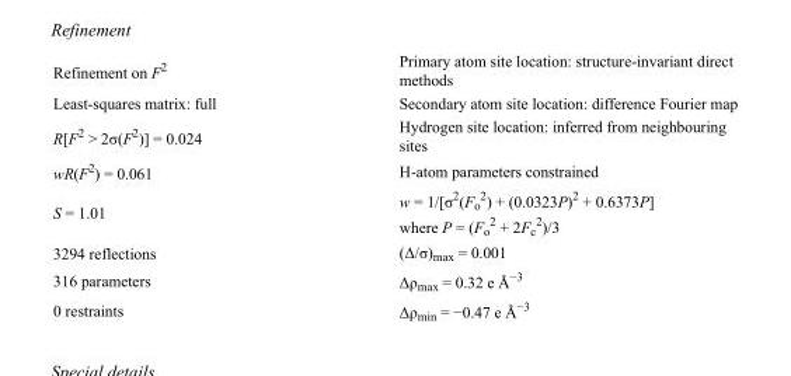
<table><tbody><tr><td>Refinement on F<sup>2</sup></td><td>Primary atom site location: structure-invariant direct methods</td></tr><tr><td>Least-squares matrix: full</td><td>Secondary atom site location: difference Fourier map</td></tr><tr><td>R[F<sup>2</sup> &gt; 2σ(F<sup>2</sup>)] = 0.024</td><td>Hydrogen site location: inferred from neighbouring sites</td></tr><tr><td>wR(F<sup>2</sup>) = 0.061</td><td>H-atom parameters constrained</td></tr><tr><td>S = 1.01</td><td>w = 1/[σ<sup>2</sup>(F<sub>o</sub> <sup>2</sup>) + (0.0323P)<sup>2</sup> + 0.6373P] where P = (F<sub>o</sub> <sup>2</sup> + 2F<sub>c</sub> <sup>2</sup>)/3</td></tr><tr><td>3294 reflections</td><td>(Δ/σ)<sub>max</sub> = 0.001</td></tr><tr><td>316 parameters</td><td>Δρ<sub>max</sub> = 0.32 e Å<sup>−3</sup></td></tr><tr><td>0 restraints</td><td>Δρ<sub>min</sub> = −0.47 e Å<sup>−3</sup></td></tr></tbody></table>